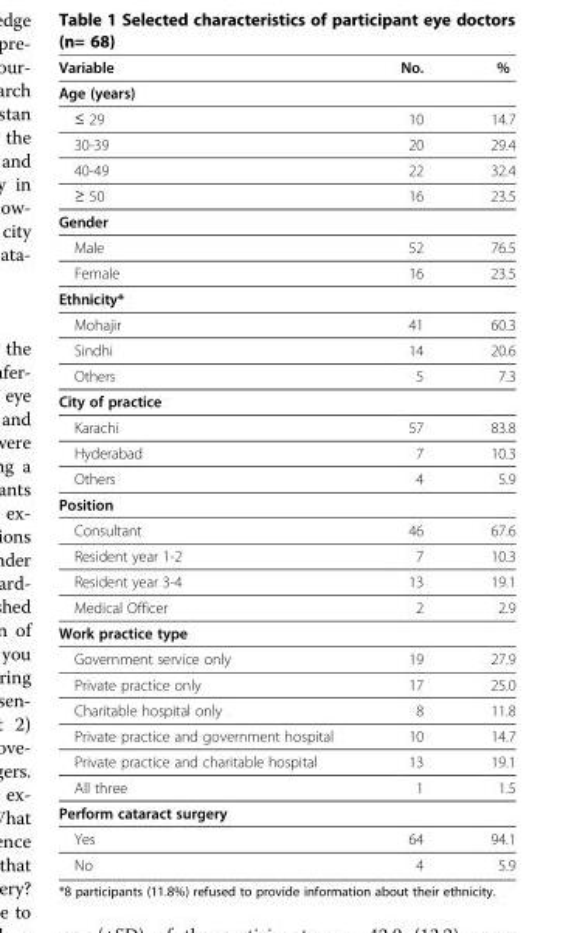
<table><thead><tr><td>Variable</td><td>No.</td><td>%</td></tr></thead><tbody><tr><td colspan="3">Age (years)</td></tr><tr><td>≤ 29</td><td>10</td><td>14.7</td></tr><tr><td>30-39</td><td>20</td><td>29.4</td></tr><tr><td>40-49</td><td>22</td><td>32.4</td></tr><tr><td>≥ 50</td><td>16</td><td>23.5</td></tr><tr><td colspan="3">Gender</td></tr><tr><td>Male</td><td>52</td><td>76.5</td></tr><tr><td>Female</td><td>16</td><td>23.5</td></tr><tr><td colspan="3">Ethnicity*</td></tr><tr><td>Mohajir</td><td>41</td><td>60.3</td></tr><tr><td>Sindhi</td><td>14</td><td>20.6</td></tr><tr><td>Others</td><td>5</td><td>7.3</td></tr><tr><td colspan="3">City of practice</td></tr><tr><td>Karachi</td><td>57</td><td>83.8</td></tr><tr><td>Hyderabad</td><td>7</td><td>10.3</td></tr><tr><td>Others</td><td>4</td><td>5.9</td></tr><tr><td colspan="3">Position</td></tr><tr><td>Consultant</td><td>46</td><td>67.6</td></tr><tr><td>Resident year 1-2</td><td>7</td><td>10.3</td></tr><tr><td>Resident year 3-4</td><td>13</td><td>19.1</td></tr><tr><td>Medical Officer</td><td>2</td><td>2.9</td></tr><tr><td colspan="3">Work practice type</td></tr><tr><td>Government service only</td><td>19</td><td>27.9</td></tr><tr><td>Private practice only</td><td>17</td><td>25.0</td></tr><tr><td>Charitable hospital only</td><td>8</td><td>11.8</td></tr><tr><td>Private practice and government hospital</td><td>10</td><td>14.7</td></tr><tr><td>Private practice and charitable hospital</td><td>13</td><td>19.1</td></tr><tr><td>All three</td><td>1</td><td>1.5</td></tr><tr><td colspan="3">Perform cataract surgery</td></tr><tr><td>Yes</td><td>64</td><td>94.1</td></tr><tr><td>No</td><td>4</td><td>5.9</td></tr></tbody></table>